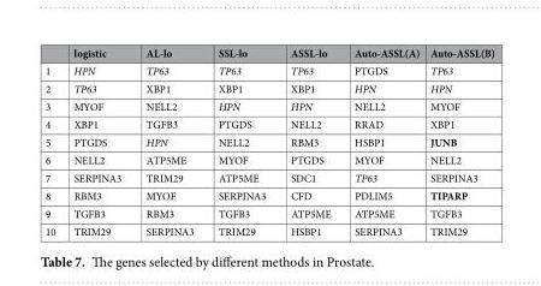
<table><thead><tr><td></td><td>logistic</td><td>AL-lo</td><td>SSL-lo</td><td>ASSL-lo</td><td>Auto-ASSL(A)</td><td>Auto-ASSL(B)</td></tr></thead><tbody><tr><td>1</td><td>HPN</td><td>TP63</td><td>TP63</td><td>TP63</td><td>PTGDS</td><td>TP63</td></tr><tr><td>2</td><td>TP63</td><td>XBP1</td><td>XBP1</td><td>XBP1</td><td>HPN</td><td>HPN</td></tr><tr><td>3</td><td>MYOF</td><td>NELL2</td><td>HPN</td><td>HPN</td><td>NELL2</td><td>MYOF</td></tr><tr><td>4</td><td>XBP1</td><td>TGFB3</td><td>PTGDS</td><td>NELL2</td><td>RRAD</td><td>XBP1</td></tr><tr><td>5</td><td>PTGDS</td><td>HPN</td><td>NELL2</td><td>RBM3</td><td>HSBP1</td><td>JUNB</td></tr><tr><td>6</td><td>NELL2</td><td>ATP5ME</td><td>MYOF</td><td>PTGDS</td><td>MYOF</td><td>NELL2</td></tr><tr><td>7</td><td>SERPINA3</td><td>TRIM29</td><td>ATP5ME</td><td>SDC1</td><td>TP63</td><td>SERPINA3</td></tr><tr><td>8</td><td>RBM3</td><td>MYOF</td><td>SERPINA3</td><td>CFD</td><td>PDLIM5</td><td>TIPARP</td></tr><tr><td>9</td><td>TGFB3</td><td>RBM3</td><td>TGFB3</td><td>ATP5ME</td><td>ATP5ME</td><td>TGFB3</td></tr><tr><td>10</td><td>TRIM29</td><td>SERPINA3</td><td>TRIM29</td><td>HSBP1</td><td>SERPINA3</td><td>TRIM29</td></tr></tbody></table>